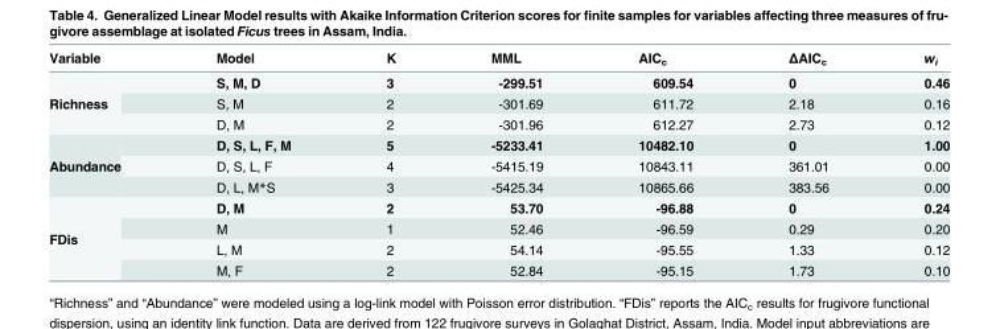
<table><thead><tr><td>Variable</td><td>Model</td><td>K</td><td>MML</td><td>AIC<sub>c</sub></td><td>ΔAIC<sub>c</sub></td><td>w<sub>i</sub></td></tr></thead><tbody><tr><td rowspan="3">Richness</td><td>S, M, D</td><td>3</td><td>-299.51</td><td>609.54</td><td>0</td><td>0.46</td></tr><tr><td>S, M</td><td>2</td><td>-301.69</td><td>611.72</td><td>2.18</td><td>0.16</td></tr><tr><td>D, M</td><td>2</td><td>-301.96</td><td>612.27</td><td>2.73</td><td>0.12</td></tr><tr><td rowspan="3">Abundance</td><td>D, S, L, F, M</td><td>5</td><td>-5233.41</td><td>10482.10</td><td>0</td><td>1.00</td></tr><tr><td>D, S, L, F</td><td>4</td><td>-5415.19</td><td>10843.11</td><td>361.01</td><td>0.00</td></tr><tr><td>D, L, M*S</td><td>3</td><td>-5425.34</td><td>10865.66</td><td>383.56</td><td>0.00</td></tr><tr><td rowspan="4">FDis</td><td>D, M</td><td>2</td><td>53.70</td><td>-96.88</td><td>0</td><td>0.24</td></tr><tr><td>M</td><td>1</td><td>52.46</td><td>-96.59</td><td>0.29</td><td>0.20</td></tr><tr><td>L, M</td><td>2</td><td>54.14</td><td>-95.55</td><td>1.33</td><td>0.12</td></tr><tr><td>M, F</td><td>2</td><td>52.84</td><td>-95.15</td><td>1.73</td><td>0.10</td></tr></tbody></table>